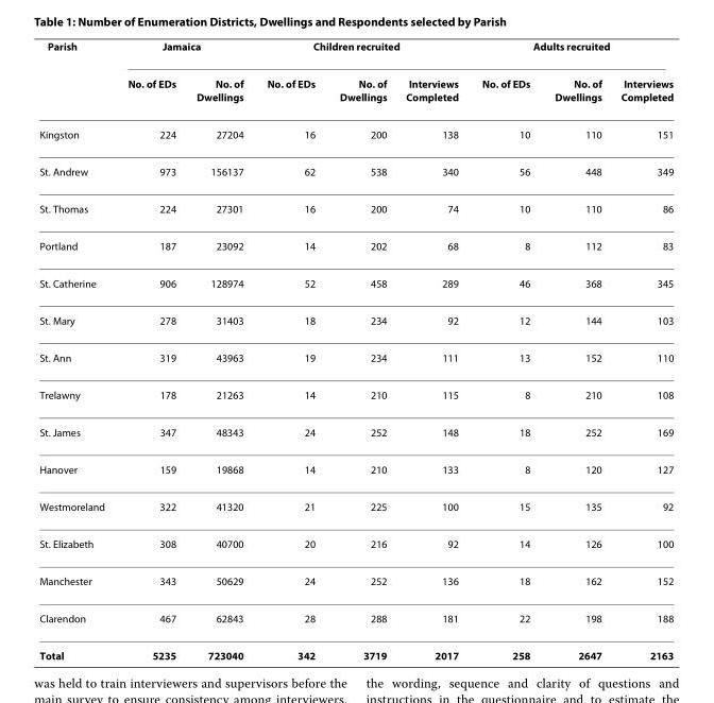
<table><thead><tr><td rowspan="2">Parish</td><td colspan="2">Jamaica</td><td colspan="3">Children recruited</td><td colspan="3">Adults recruited</td></tr><tr><td>No. of EDs</td><td>No. of Dwellings</td><td>No. of EDs</td><td>No. of Dwellings</td><td>Interviews Completed</td><td>No. of EDs</td><td>No. of Dwellings</td><td>Interviews Completed</td></tr></thead><tbody><tr><td>Kingston</td><td>224</td><td>27204</td><td>16</td><td>200</td><td>138</td><td>10</td><td>110</td><td>151</td></tr><tr><td>St. Andrew</td><td>973</td><td>156137</td><td>62</td><td>538</td><td>340</td><td>56</td><td>448</td><td>349</td></tr><tr><td>St. Thomas</td><td>224</td><td>27301</td><td>16</td><td>200</td><td>74</td><td>10</td><td>110</td><td>86</td></tr><tr><td>Portland</td><td>187</td><td>23092</td><td>14</td><td>202</td><td>68</td><td>8</td><td>112</td><td>83</td></tr><tr><td>St. Catherine</td><td>906</td><td>128974</td><td>52</td><td>458</td><td>289</td><td>46</td><td>368</td><td>345</td></tr><tr><td>St. Mary</td><td>278</td><td>31403</td><td>18</td><td>234</td><td>92</td><td>12</td><td>144</td><td>103</td></tr><tr><td>St. Ann</td><td>319</td><td>43963</td><td>19</td><td>234</td><td>111</td><td>13</td><td>152</td><td>110</td></tr><tr><td>Trelawny</td><td>178</td><td>21263</td><td>14</td><td>210</td><td>115</td><td>8</td><td>210</td><td>108</td></tr><tr><td>St. James</td><td>347</td><td>48343</td><td>24</td><td>252</td><td>148</td><td>18</td><td>252</td><td>169</td></tr><tr><td>Hanover</td><td>159</td><td>19868</td><td>14</td><td>210</td><td>133</td><td>8</td><td>120</td><td>127</td></tr><tr><td>Westmoreland</td><td>322</td><td>41320</td><td>21</td><td>225</td><td>100</td><td>15</td><td>135</td><td>92</td></tr><tr><td>St. Elizabeth</td><td>308</td><td>40700</td><td>20</td><td>216</td><td>92</td><td>14</td><td>126</td><td>100</td></tr><tr><td>Manchester</td><td>343</td><td>50629</td><td>24</td><td>252</td><td>136</td><td>18</td><td>162</td><td>152</td></tr><tr><td>Clarendon</td><td>467</td><td>62843</td><td>28</td><td>288</td><td>181</td><td>22</td><td>198</td><td>188</td></tr><tr><td>Total</td><td>5235</td><td>723040</td><td>342</td><td>3719</td><td>2017</td><td>258</td><td>2647</td><td>2163</td></tr></tbody></table>